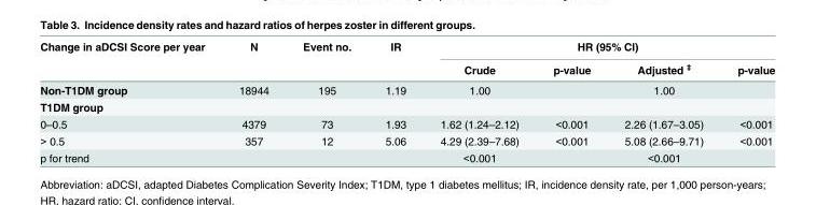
<table><thead><tr><td rowspan="2">Change in aDCSI Score per year</td><td rowspan="2">N</td><td rowspan="2">Event no.</td><td rowspan="2">IR</td><td colspan="4">HR (95% CI)</td></tr><tr><td>Crude</td><td>p-value</td><td>Adjusted <sup>‡</sup></td><td>p-value</td></tr></thead><tbody><tr><td>Non-T1DM group</td><td>18944</td><td>195</td><td>1.19</td><td>1.00</td><td></td><td>1.00</td><td></td></tr><tr><td colspan="8">T1DM group</td></tr><tr><td>0–0.5</td><td>4379</td><td>73</td><td>1.93</td><td>1.62 (1.24–2.12)</td><td>&lt;0.001</td><td>2.26 (1.67–3.05)</td><td>&lt;0.001</td></tr><tr><td>&gt; 0.5</td><td>357</td><td>12</td><td>5.06</td><td>4.29 (2.39–7.68)</td><td>&lt;0.001</td><td>5.08 (2.66–9.71)</td><td>&lt;0.001</td></tr><tr><td>p for trend</td><td></td><td></td><td></td><td>&lt;0.001</td><td></td><td>&lt;0.001</td><td></td></tr></tbody></table>